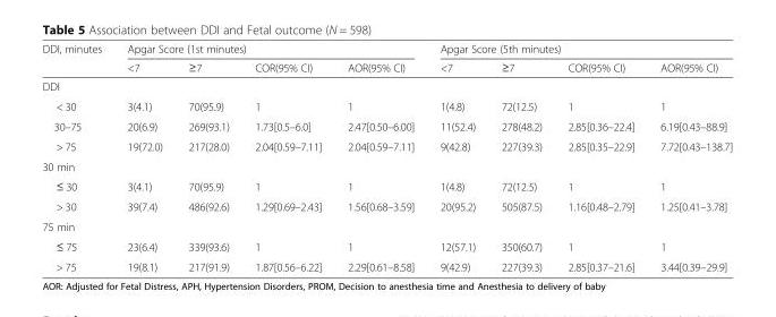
<table><thead><tr><td rowspan="2">DDI, minutes</td><td colspan="4">Apgar Score (1st minutes)</td><td colspan="4">Apgar Score (5th minutes)</td></tr><tr><td>&lt;7</td><td>≥7</td><td>COR(95% CI)</td><td>AOR(95% CI)</td><td>&lt;7</td><td>≥7</td><td>COR(95% CI)</td><td>AOR(95% CI)</td></tr></thead><tbody><tr><td colspan="9">DDI</td></tr><tr><td>&lt; 30</td><td>3(4.1)</td><td>70(95.9)</td><td>1</td><td>1</td><td>1(4.8)</td><td>72(12.5)</td><td>1</td><td>1</td></tr><tr><td>30–75</td><td>20(6.9)</td><td>269(93.1)</td><td>1.73[0.5–6.0]</td><td>2.47[0.50–6.00]</td><td>11(52.4)</td><td>278(48.2)</td><td>2.85[0.36–22.4]</td><td>6.19[0.43–88.9]</td></tr><tr><td>&gt; 75</td><td>19(72.0)</td><td>217(28.0)</td><td>2.04[0.59–7.11]</td><td>2.04[0.59–7.11]</td><td>9(42.8)</td><td>227(39.3)</td><td>2.85[0.35–22.9]</td><td>7.72[0.43–138.7]</td></tr><tr><td colspan="9">30 min</td></tr><tr><td>≤ 30</td><td>3(4.1)</td><td>70(95.9)</td><td>1</td><td>1</td><td>1(4.8)</td><td>72(12.5)</td><td>1</td><td>1</td></tr><tr><td>&gt; 30</td><td>39(7.4)</td><td>486(92.6)</td><td>1.29[0.69–2.43]</td><td>1.56[0.68–3.59]</td><td>20(95.2)</td><td>505(87.5)</td><td>1.16[0.48–2.79]</td><td>1.25[0.41–3.78]</td></tr><tr><td colspan="9">75 min</td></tr><tr><td>≤ 75</td><td>23(6.4)</td><td>339(93.6)</td><td>1</td><td>1</td><td>12(57.1)</td><td>350(60.7)</td><td>1</td><td>1</td></tr><tr><td>&gt; 75</td><td>19(8.1)</td><td>217(91.9)</td><td>1.87[0.56–6.22]</td><td>2.29[0.61–8.58]</td><td>9(42.9)</td><td>227(39.3)</td><td>2.85[0.37–21.6]</td><td>3.44[0.39–29.9]</td></tr></tbody></table>